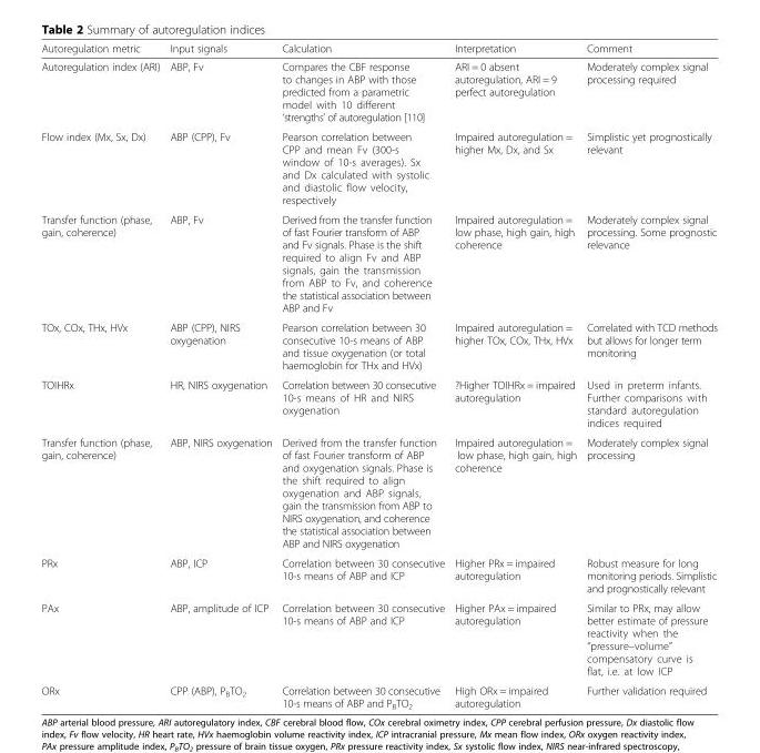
<table><thead><tr><td>Autoregulation metric</td><td>Input signals</td><td>Calculation</td><td>Interpretation</td><td>Comment</td></tr></thead><tbody><tr><td>Autoregulation index (ARI)</td><td>ABP, Fv</td><td>Compares the CBF response to changes in ABP with those predicted from a parametric model with 10 different ‘strengths’ of autoregulation [110]</td><td>ARI = 0 absent autoregulation, ARI = 9 perfect autoregulation</td><td>Moderately complex signal processing required</td></tr><tr><td>Flow index (Mx, Sx, Dx)</td><td>ABP (CPP), Fv</td><td>Pearson correlation between CPP and mean Fv (300-s window of 10-s averages). Sx and Dx calculated with systolic and diastolic flow velocity, respectively</td><td>Impaired autoregulation = higher Mx, Dx, and Sx</td><td>Simplistic yet prognostically relevant</td></tr><tr><td>Transfer function (phase, gain, coherence)</td><td>ABP, Fv</td><td>Derived from the transfer function of fast Fourier transform of ABP and Fv signals. Phase is the shift required to align Fv and ABP signals, gain the transmission from ABP to Fv, and coherence the statistical association between ABP and Fv</td><td>Impaired autoregulation = low phase, high gain, high coherence</td><td>Moderately complex signal processing. Some prognostic relevance</td></tr><tr><td>TOx, COx, THx, HVx</td><td>ABP (CPP), NIRS oxygenation</td><td>Pearson correlation between 30 consecutive 10-s means of ABP and tissue oxygenation (or total haemoglobin for THx and HVx)</td><td>Impaired autoregulation = higher TOx, COx, THx, HVx</td><td>Correlated with TCD methods but allows for longer term monitoring</td></tr><tr><td>TOIHRx</td><td>HR, NIRS oxygenation</td><td>Correlation between 30 consecutive 10-s means of HR and NIRS oxygenation</td><td>?Higher TOIHRx = impaired autoregulation</td><td>Used in preterm infants. Further comparisons with standard autoregulation indices required</td></tr><tr><td>Transfer function (phase, gain, coherence)</td><td>ABP, NIRS oxygenation</td><td>Derived from the transfer function of fast Fourier transform of ABP and oxygenation signals. Phase is the shift required to align oxygenation and ABP signals, gain the transmission from ABP to NIRS oxygenation, and coherence the statistical association between ABP and NIRS oxygenation</td><td>Impaired autoregulation = low phase, high gain, high coherence</td><td>Moderately complex signal processing</td></tr><tr><td>PRx</td><td>ABP, ICP</td><td>Correlation between 30 consecutive 10-s means of ABP and ICP</td><td>Higher PRx = impaired autoregulation</td><td>Robust measure for long monitoring periods. Simplistic and prognostically relevant</td></tr><tr><td>PAx</td><td>ABP, amplitude of ICP</td><td>Correlation between 30 consecutive 10-s means of ABP and ICP</td><td>Higher PAx = impaired autoregulation</td><td>Similar to PRx, may allow better estimate of pressure reactivity when the “pressure–volume” compensatory curve is flat, i.e. at low ICP</td></tr><tr><td>ORx</td><td>CPP (ABP), P<sub>B</sub>TO<sub>2</sub></td><td>Correlation between 30 consecutive 10-s means of ABP and P<sub>B</sub>TO<sub>2</sub></td><td>High ORx = impaired autoregulation</td><td>Further validation required</td></tr></tbody></table>